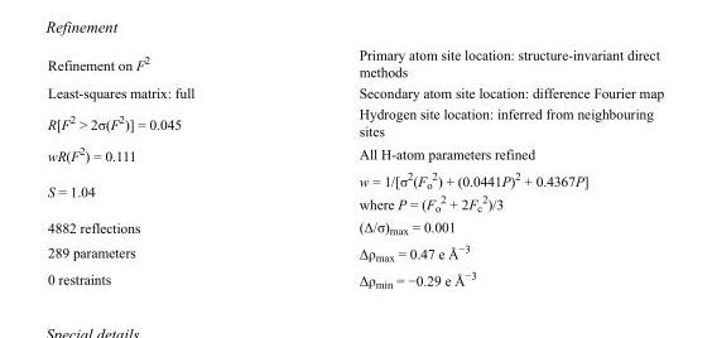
<table><tbody><tr><td>Refinement on F<sup>2</sup></td><td>Primary atom site location: structure-invariant direct methods</td></tr><tr><td>Least-squares matrix: full</td><td>Secondary atom site location: difference Fourier map</td></tr><tr><td>R[F<sup>2</sup> &gt; 2σ(F<sup>2</sup>)] = 0.045</td><td>Hydrogen site location: inferred from neighbouring sites</td></tr><tr><td>wR(F<sup>2</sup>) = 0.111</td><td>All H-atom parameters refined</td></tr><tr><td>S = 1.04</td><td>w = 1/[σ<sup>2</sup>(F<sub>o</sub> <sup>2</sup>) + (0.0441P)<sup>2</sup> + 0.4367P] where P = (F<sub>o</sub> <sup>2</sup> + 2F<sub>c</sub> <sup>2</sup>)/3</td></tr><tr><td>4882 reflections</td><td>(Δ/σ)<sub>max</sub> = 0.001</td></tr><tr><td>289 parameters</td><td>Δρ<sub>max</sub> = 0.47 e Å<sup>−3</sup></td></tr><tr><td>0 restraints</td><td>Δρ<sub>min</sub> = −0.29 e Å<sup>−3</sup></td></tr></tbody></table>